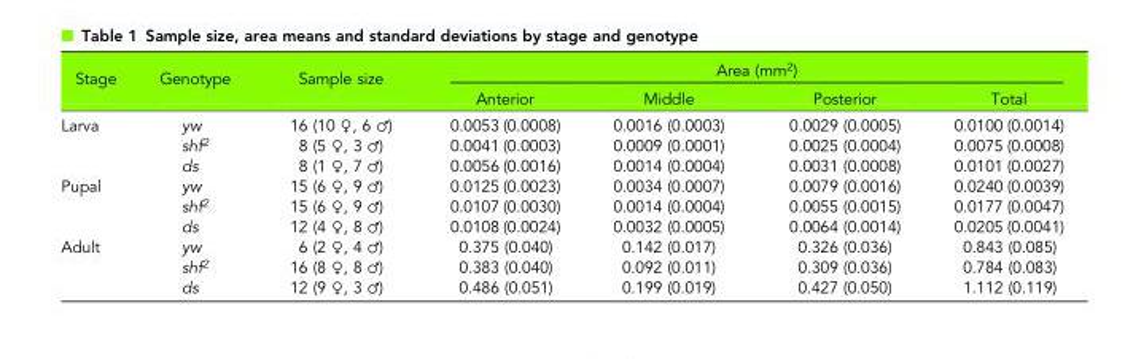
<table><thead><tr><td rowspan="2">Stage</td><td rowspan="2">Genotype</td><td rowspan="2">Sample size</td><td colspan="4">Area (mm<sup>2</sup>)</td></tr><tr><td>Anterior</td><td>Middle</td><td>Posterior</td><td>Total</td></tr></thead><tbody><tr><td rowspan="3">Larva</td><td>yw</td><td>16 (10 ♀, 6 ♂)</td><td>0.0053 (0.0008)</td><td>0.0016 (0.0003)</td><td>0.0029 (0.0005)</td><td>0.0100 (0.0014)</td></tr><tr><td>shf<sup>2</sup></td><td>8 (5 ♀, 3 ♂)</td><td>0.0041 (0.0003)</td><td>0.0009 (0.0001)</td><td>0.0025 (0.0004)</td><td>0.0075 (0.0008)</td></tr><tr><td>ds</td><td>8 (1 ♀, 7 ♂)</td><td>0.0056 (0.0016)</td><td>0.0014 (0.0004)</td><td>0.0031 (0.0008)</td><td>0.0101 (0.0027)</td></tr><tr><td rowspan="3">Pupal</td><td>yw</td><td>15 (6 ♀, 9 ♂)</td><td>0.0125 (0.0023)</td><td>0.0034 (0.0007)</td><td>0.0079 (0.0016)</td><td>0.0240 (0.0039)</td></tr><tr><td>shf<sup>2</sup></td><td>15 (6 ♀, 9 ♂)</td><td>0.0107 (0.0030)</td><td>0.0014 (0.0004)</td><td>0.0055 (0.0015)</td><td>0.0177 (0.0047)</td></tr><tr><td>ds</td><td>12 (4 ♀, 8 ♂)</td><td>0.0108 (0.0024)</td><td>0.0032 (0.0005)</td><td>0.0064 (0.0014)</td><td>0.0205 (0.0041)</td></tr><tr><td rowspan="3">Adult</td><td>yw</td><td>6 (2 ♀, 4 ♂)</td><td>0.375 (0.040)</td><td>0.142 (0.017)</td><td>0.326 (0.036)</td><td>0.843 (0.085)</td></tr><tr><td>shf<sup>2</sup></td><td>16 (8 ♀, 8 ♂)</td><td>0.383 (0.040)</td><td>0.092 (0.011)</td><td>0.309 (0.036)</td><td>0.784 (0.083)</td></tr><tr><td>ds</td><td>12 (9 ♀, 3 ♂)</td><td>0.486 (0.051)</td><td>0.199 (0.019)</td><td>0.427 (0.050)</td><td>1.112 (0.119)</td></tr></tbody></table>